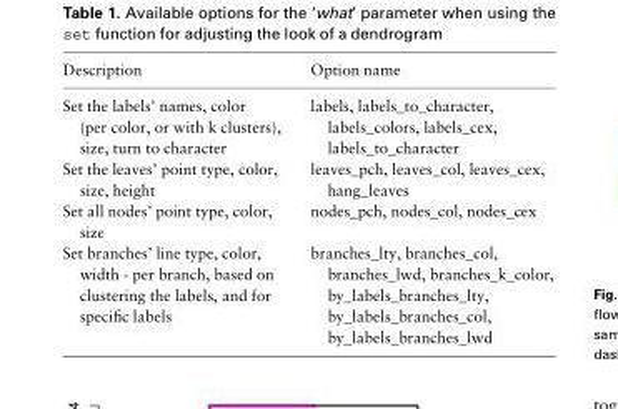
<table><thead><tr><td>Description</td><td>Option name</td></tr></thead><tbody><tr><td>Set the labels’ names, color (per color, or with k clusters), size, turn to character</td><td>labels, labels_to_character, labels_colors, labels_cex, labels_to_character</td></tr><tr><td>Set the leaves’ point type, color, size, height</td><td>leaves_pch, leaves_col, leaves_cex, hang_leaves</td></tr><tr><td>Set all nodes’ point type, color, size</td><td>nodes_pch, nodes_col, nodes_cex</td></tr><tr><td>Set branches’ line type, color, width - per branch, based on clustering the labels, and for specific labels</td><td>branches_lty, branches_col, branches_lwd, branches_k_color, by_labels_branches_lty, by_labels_branches_col, by_labels_branches_lwd</td></tr></tbody></table>